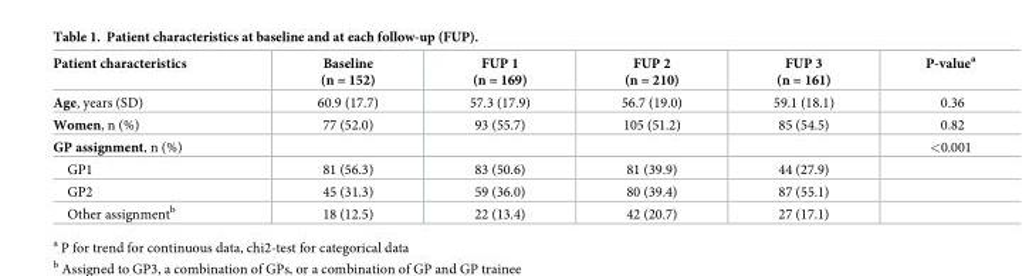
<table><thead><tr><td>Patient characteristics</td><td>Baseline (n = 152)</td><td>FUP 1 (n = 169)</td><td>FUP 2 (n = 210)</td><td>FUP 3 (n = 161)</td><td>P-value<sup>a</sup></td></tr></thead><tbody><tr><td>Age, years (SD)</td><td>60.9 (17.7)</td><td>57.3 (17.9)</td><td>56.7 (19.0)</td><td>59.1 (18.1)</td><td>0.36</td></tr><tr><td>Women, n (%)</td><td>77 (52.0)</td><td>93 (55.7)</td><td>105 (51.2)</td><td>85 (54.5)</td><td>0.82</td></tr><tr><td>GP assignment, n (%)</td><td></td><td></td><td></td><td></td><td>&lt;0.001</td></tr><tr><td>GP1</td><td>81 (56.3)</td><td>83 (50.6)</td><td>81 (39.9)</td><td>44 (27.9)</td><td></td></tr><tr><td>GP2</td><td>45 (31.3)</td><td>59 (36.0)</td><td>80 (39.4)</td><td>87 (55.1)</td><td></td></tr><tr><td>Other assignment<sup>b</sup></td><td>18 (12.5)</td><td>22 (13.4)</td><td>42 (20.7)</td><td>27 (17.1)</td><td></td></tr></tbody></table>